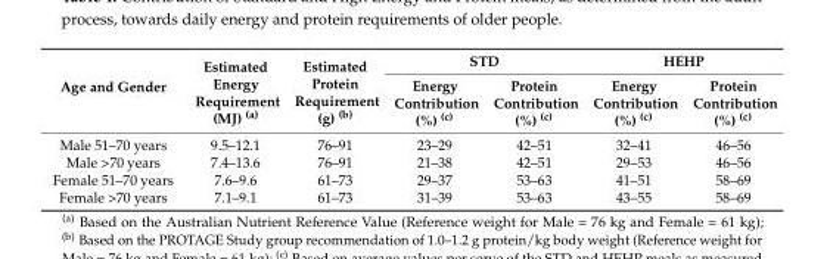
<table><thead><tr><td rowspan="2">Age and Gender</td><td rowspan="2">Estimated Energy Requirement (MJ) <sup>(a)</sup></td><td rowspan="2">Estimated Protein Requirement (g) <sup>(b)</sup></td><td colspan="2">STD</td><td colspan="2">HEHP</td></tr><tr><td>Energy Contribution (%) <sup>(c)</sup></td><td>Protein Contribution (%) <sup>(c)</sup></td><td>Energy Contribution (%) <sup>(c)</sup></td><td>Protein Contribution (%) <sup>(c)</sup></td></tr></thead><tbody><tr><td>Male 51–70 years</td><td>9.5–12.1</td><td>76–91</td><td>23–29</td><td>42–51</td><td>32–41</td><td>46–56</td></tr><tr><td>Male &gt;70 years</td><td>7.4–13.6</td><td>76–91</td><td>21–38</td><td>42–51</td><td>29–53</td><td>46–56</td></tr><tr><td>Female 51–70 years</td><td>7.6–9.6</td><td>61–73</td><td>29–37</td><td>53–63</td><td>41–51</td><td>58–69</td></tr><tr><td>Female &gt;70 years</td><td>7.1–9.1</td><td>61–73</td><td>31–39</td><td>53–63</td><td>43–55</td><td>58–69</td></tr></tbody></table>